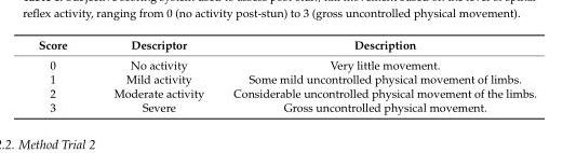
<table><thead><tr><td>Score</td><td>Descriptor</td><td>Description</td></tr></thead><tbody><tr><td>0</td><td>No activity</td><td>Very little movement.</td></tr><tr><td>1</td><td>Mild activity</td><td>Some mild uncontrolled physical movement of limbs.</td></tr><tr><td>2</td><td>Moderate activity</td><td>Considerable uncontrolled physical movement of the limbs.</td></tr><tr><td>3</td><td>Severe</td><td>Gross uncontrolled physical movement.</td></tr></tbody></table>